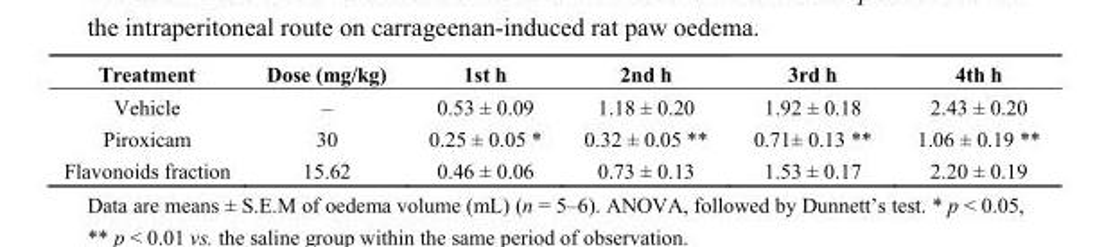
<table><thead><tr><td>Treatment</td><td>Dose (mg/kg)</td><td>1st h</td><td>2nd h</td><td>3rd h</td><td>4th h</td></tr></thead><tbody><tr><td>Vehicle</td><td>–</td><td>0.53 ± 0.09</td><td>1.18 ± 0.20</td><td>1.92 ± 0.18</td><td>2.43 ± 0.20</td></tr><tr><td>Piroxicam</td><td>30</td><td>0.25 ± 0.05 *</td><td>0.32 ± 0.05 **</td><td>0.71± 0.13 **</td><td>1.06 ± 0.19 **</td></tr><tr><td>Flavonoids fraction</td><td>15.62</td><td>0.46 ± 0.06</td><td>0.73 ± 0.13</td><td>1.53 ± 0.17</td><td>2.20 ± 0.19</td></tr></tbody></table>